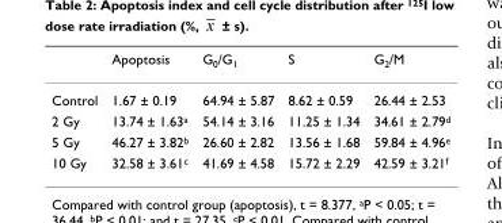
<table><thead><tr><td></td><td>Apoptosis</td><td>G<sub>0</sub>/G<sub>1</sub></td><td>S</td><td>G<sub>2</sub>/M</td></tr></thead><tbody><tr><td>Control</td><td>1.67 ± 0.19</td><td>64.94 ± 5.87</td><td>8.62 ± 0.59</td><td>26.44 ± 2.53</td></tr><tr><td>2 Gy</td><td>13.74 ± 1.63<sup>a</sup></td><td>54.14 ± 3.16</td><td>11.25 ± 1.34</td><td>34.61 ± 2.79<sup>d</sup></td></tr><tr><td>5 Gy</td><td>46.27 ± 3.82<sup>b</sup></td><td>26.60 ± 2.82</td><td>13.56 ± 1.68</td><td>59.84 ± 4.96<sup>e</sup></td></tr><tr><td>10 Gy</td><td>32.58 ± 3.61<sup>c</sup></td><td>41.69 ± 4.58</td><td>15.72 ± 2.29</td><td>42.59 ± 3.21<sup>f</sup></td></tr></tbody></table>